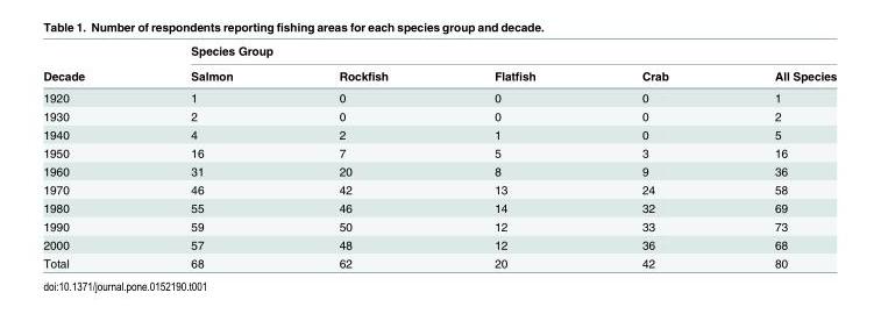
<table><thead><tr><td rowspan="2">Decade</td><td colspan="5">Species Group</td></tr><tr><td>Salmon</td><td>Rockfish</td><td>Flatfish</td><td>Crab</td><td>All Species</td></tr></thead><tbody><tr><td>1920</td><td>1</td><td>0</td><td>0</td><td>0</td><td>1</td></tr><tr><td>1930</td><td>2</td><td>0</td><td>0</td><td>0</td><td>2</td></tr><tr><td>1940</td><td>4</td><td>2</td><td>1</td><td>0</td><td>5</td></tr><tr><td>1950</td><td>16</td><td>7</td><td>5</td><td>3</td><td>16</td></tr><tr><td>1960</td><td>31</td><td>20</td><td>8</td><td>9</td><td>36</td></tr><tr><td>1970</td><td>46</td><td>42</td><td>13</td><td>24</td><td>58</td></tr><tr><td>1980</td><td>55</td><td>46</td><td>14</td><td>32</td><td>69</td></tr><tr><td>1990</td><td>59</td><td>50</td><td>12</td><td>33</td><td>73</td></tr><tr><td>2000</td><td>57</td><td>48</td><td>12</td><td>36</td><td>68</td></tr><tr><td>Total</td><td>68</td><td>62</td><td>20</td><td>42</td><td>80</td></tr></tbody></table>